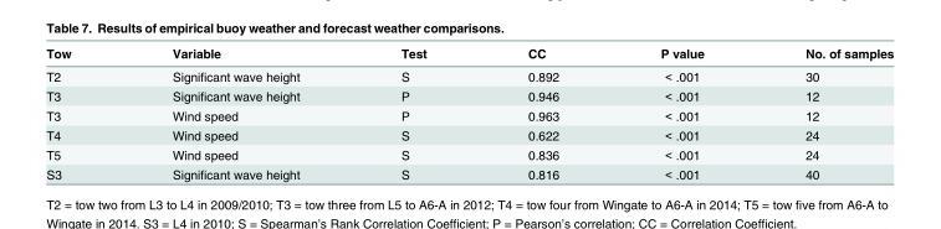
<table><thead><tr><td>Tow</td><td>Variable</td><td>Test</td><td>CC</td><td>P value</td><td>No. of samples</td></tr></thead><tbody><tr><td>T2</td><td>Significant wave height</td><td>S</td><td>0.892</td><td>&lt; .001</td><td>30</td></tr><tr><td>T3</td><td>Significant wave height</td><td>P</td><td>0.946</td><td>&lt; .001</td><td>12</td></tr><tr><td>T3</td><td>Wind speed</td><td>P</td><td>0.963</td><td>&lt; .001</td><td>12</td></tr><tr><td>T4</td><td>Wind speed</td><td>S</td><td>0.622</td><td>&lt; .001</td><td>24</td></tr><tr><td>T5</td><td>Wind speed</td><td>S</td><td>0.836</td><td>&lt; .001</td><td>24</td></tr><tr><td>S3</td><td>Significant wave height</td><td>S</td><td>0.816</td><td>&lt; .001</td><td>40</td></tr></tbody></table>